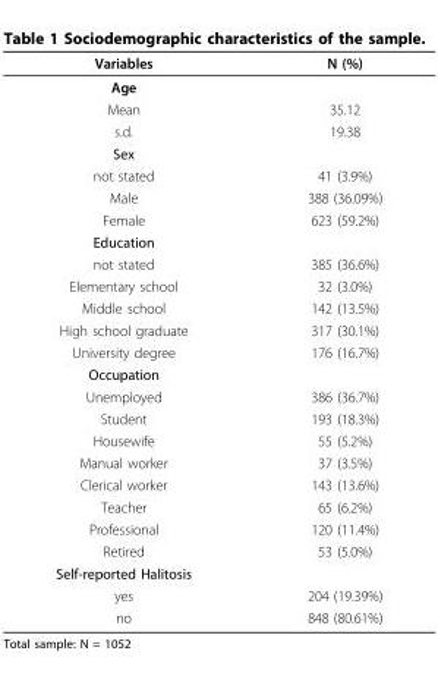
<table><thead><tr><td>Variables</td><td>N (%)</td></tr></thead><tbody><tr><td colspan="2">Age</td></tr><tr><td>Mean</td><td>35.12</td></tr><tr><td>s.d.</td><td>19.38</td></tr><tr><td colspan="2">Sex</td></tr><tr><td>not stated</td><td>41 (3.9%)</td></tr><tr><td>Male</td><td>388 (36.09%)</td></tr><tr><td>Female</td><td>623 (59.2%)</td></tr><tr><td colspan="2">Education</td></tr><tr><td>not stated</td><td>385 (36.6%)</td></tr><tr><td>Elementary school</td><td>32 (3.0%)</td></tr><tr><td>Middle school</td><td>142 (13.5%)</td></tr><tr><td>High school graduate</td><td>317 (30.1%)</td></tr><tr><td>University degree</td><td>176 (16.7%)</td></tr><tr><td colspan="2">Occupation</td></tr><tr><td>Unemployed</td><td>386 (36.7%)</td></tr><tr><td>Student</td><td>193 (18.3%)</td></tr><tr><td>Housewife</td><td>55 (5.2%)</td></tr><tr><td>Manual worker</td><td>37 (3.5%)</td></tr><tr><td>Clerical worker</td><td>143 (13.6%)</td></tr><tr><td>Teacher</td><td>65 (6.2%)</td></tr><tr><td>Professional</td><td>120 (11.4%)</td></tr><tr><td>Retired</td><td>53 (5.0%)</td></tr><tr><td colspan="2">Self-reported Halitosis</td></tr><tr><td>yes</td><td>204 (19.39%)</td></tr><tr><td>no</td><td>848 (80.61%)</td></tr></tbody></table>